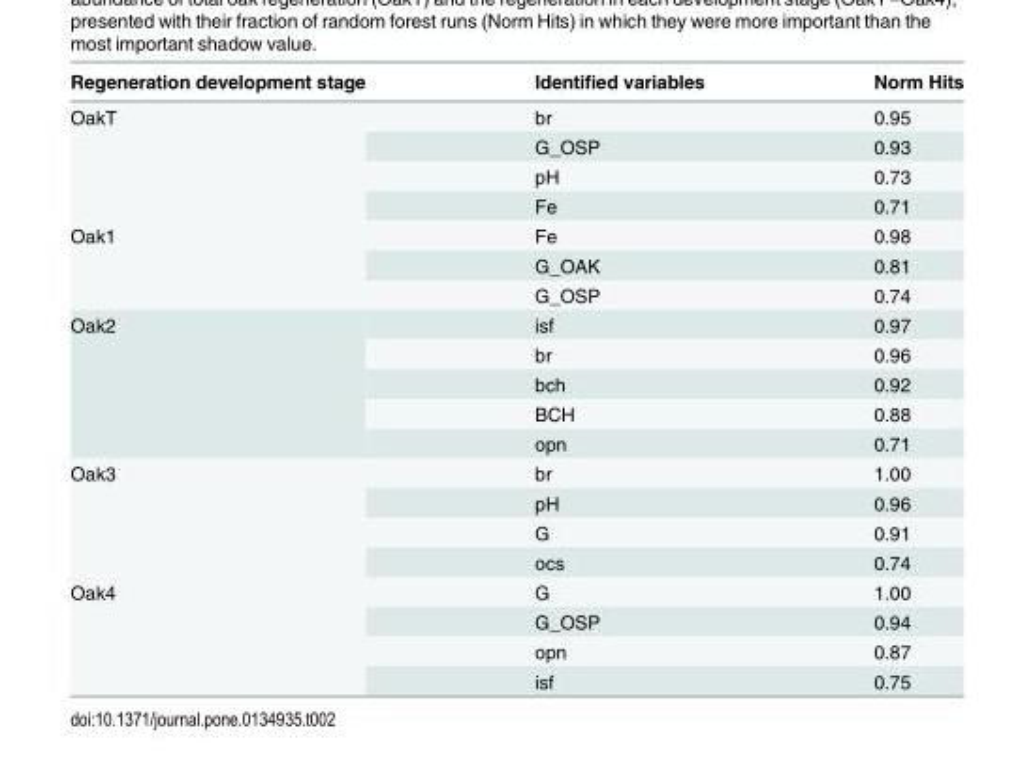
<table><thead><tr><td>Regeneration development stage</td><td>Identified variables</td><td>Norm Hits</td></tr></thead><tbody><tr><td rowspan="4">OakT</td><td>br</td><td>0.95</td></tr><tr><td>G_OSP</td><td>0.93</td></tr><tr><td>pH</td><td>0.73</td></tr><tr><td>Fe</td><td>0.71</td></tr><tr><td rowspan="3">Oak1</td><td>Fe</td><td>0.98</td></tr><tr><td>G_OAK</td><td>0.81</td></tr><tr><td>G_OSP</td><td>0.74</td></tr><tr><td rowspan="5">Oak2</td><td>isf</td><td>0.97</td></tr><tr><td>br</td><td>0.96</td></tr><tr><td>bch</td><td>0.92</td></tr><tr><td>BCH</td><td>0.88</td></tr><tr><td>opn</td><td>0.71</td></tr><tr><td rowspan="4">Oak3</td><td>br</td><td>1.00</td></tr><tr><td>pH</td><td>0.96</td></tr><tr><td>G</td><td>0.91</td></tr><tr><td>ocs</td><td>0.74</td></tr><tr><td rowspan="4">Oak4</td><td>G</td><td>1.00</td></tr><tr><td>G_OSP</td><td>0.94</td></tr><tr><td>opn</td><td>0.87</td></tr><tr><td>isf</td><td>0.75</td></tr></tbody></table>